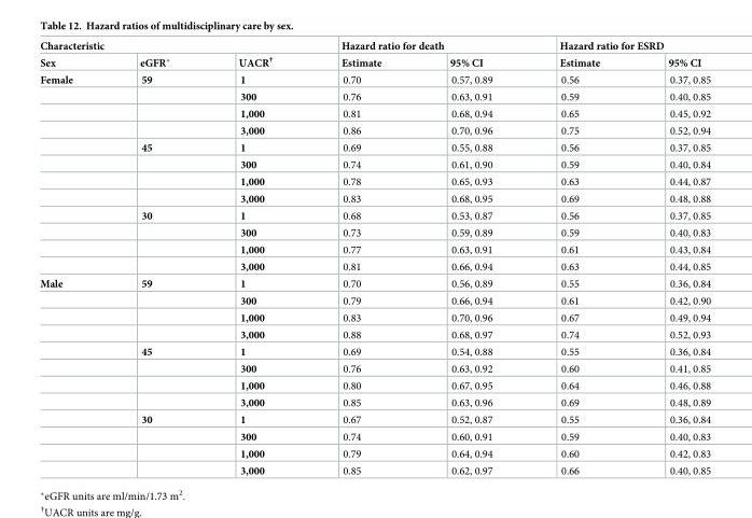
<table><thead><tr><td colspan="3">Characteristic</td><td colspan="2">Hazard ratio for death</td><td colspan="2">Hazard ratio for ESRD</td></tr><tr><td>Sex</td><td>eGFR*</td><td>UACR<sup>†</sup></td><td>Estimate</td><td>95% CI</td><td>Estimate</td><td>95% CI</td></tr></thead><tbody><tr><td rowspan="12">Female</td><td>59</td><td>1</td><td>0.70</td><td>0.57, 0.89</td><td>0.56</td><td>0.37, 0.85</td></tr><tr><td></td><td>300</td><td>0.76</td><td>0.63, 0.91</td><td>0.59</td><td>0.40, 0.85</td></tr><tr><td></td><td>1,000</td><td>0.81</td><td>0.68, 0.94</td><td>0.65</td><td>0.45, 0.92</td></tr><tr><td></td><td>3,000</td><td>0.86</td><td>0.70, 0.96</td><td>0.75</td><td>0.52, 0.94</td></tr><tr><td>45</td><td>1</td><td>0.69</td><td>0.55, 0.88</td><td>0.56</td><td>0.37, 0.85</td></tr><tr><td></td><td>300</td><td>0.74</td><td>0.61, 0.90</td><td>0.59</td><td>0.40, 0.84</td></tr><tr><td></td><td>1,000</td><td>0.78</td><td>0.65, 0.93</td><td>0.63</td><td>0.44, 0.87</td></tr><tr><td></td><td>3,000</td><td>0.83</td><td>0.68, 0.95</td><td>0.69</td><td>0.48, 0.88</td></tr><tr><td>30</td><td>1</td><td>0.68</td><td>0.53, 0.87</td><td>0.56</td><td>0.37, 0.85</td></tr><tr><td></td><td>300</td><td>0.73</td><td>0.59, 0.89</td><td>0.59</td><td>0.40, 0.83</td></tr><tr><td></td><td>1,000</td><td>0.77</td><td>0.63, 0.91</td><td>0.61</td><td>0.43, 0.84</td></tr><tr><td></td><td>3,000</td><td>0.81</td><td>0.66, 0.94</td><td>0.63</td><td>0.44, 0.85</td></tr><tr><td rowspan="12">Male</td><td>59</td><td>1</td><td>0.70</td><td>0.56, 0.89</td><td>0.55</td><td>0.36, 0.84</td></tr><tr><td></td><td>300</td><td>0.79</td><td>0.66, 0.94</td><td>0.61</td><td>0.42, 0.90</td></tr><tr><td></td><td>1,000</td><td>0.83</td><td>0.70, 0.96</td><td>0.67</td><td>0.49, 0.94</td></tr><tr><td></td><td>3,000</td><td>0.88</td><td>0.68, 0.97</td><td>0.74</td><td>0.52, 0.93</td></tr><tr><td>45</td><td>1</td><td>0.69</td><td>0.54, 0.88</td><td>0.55</td><td>0.36, 0.84</td></tr><tr><td></td><td>300</td><td>0.76</td><td>0.63, 0.92</td><td>0.60</td><td>0.41, 0.85</td></tr><tr><td></td><td>1,000</td><td>0.80</td><td>0.67, 0.95</td><td>0.64</td><td>0.46, 0.88</td></tr><tr><td></td><td>3,000</td><td>0.85</td><td>0.63, 0.96</td><td>0.69</td><td>0.48, 0.89</td></tr><tr><td>30</td><td>1</td><td>0.67</td><td>0.52, 0.87</td><td>0.55</td><td>0.36, 0.84</td></tr><tr><td></td><td>300</td><td>0.74</td><td>0.60, 0.91</td><td>0.59</td><td>0.40, 0.83</td></tr><tr><td></td><td>1,000</td><td>0.79</td><td>0.64, 0.94</td><td>0.60</td><td>0.42, 0.83</td></tr><tr><td></td><td>3,000</td><td>0.85</td><td>0.62, 0.97</td><td>0.66</td><td>0.40, 0.85</td></tr></tbody></table>